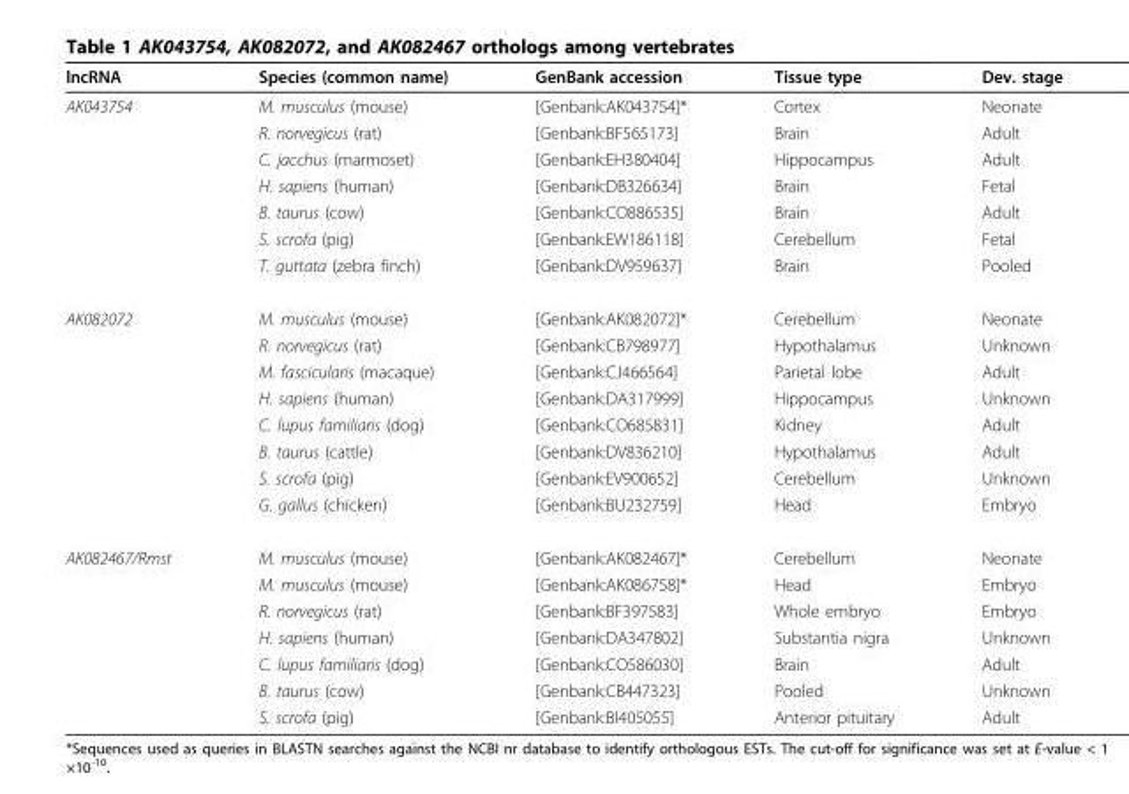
<table><thead><tr><td>lncRNA</td><td>Species (common name)</td><td>GenBank accession</td><td>Tissue type</td><td>Dev. stage</td></tr></thead><tbody><tr><td rowspan="7">AK043754</td><td>M. musculus (mouse)</td><td>[Genbank:AK043754]*</td><td>Cortex</td><td>Neonate</td></tr><tr><td>R. norvegicus (rat)</td><td>[Genbank:BF565173]</td><td>Brain</td><td>Adult</td></tr><tr><td>C. jacchus (marmoset)</td><td>[Genbank:EH380404]</td><td>Hippocampus</td><td>Adult</td></tr><tr><td>H. sapiens (human)</td><td>[Genbank:DB326634]</td><td>Brain</td><td>Fetal</td></tr><tr><td>B. taurus (cow)</td><td>[Genbank:CO886535]</td><td>Brain</td><td>Adult</td></tr><tr><td>S. scrofa (pig)</td><td>[Genbank:EW186118]</td><td>Cerebellum</td><td>Fetal</td></tr><tr><td>T. guttata (zebra finch)</td><td>[Genbank:DV959637]</td><td>Brain</td><td>Pooled</td></tr><tr><td rowspan="8">AK082072</td><td>M. musculus (mouse)</td><td>[Genbank:AK082072]*</td><td>Cerebellum</td><td>Neonate</td></tr><tr><td>R. norvegicus (rat)</td><td>[Genbank:CB798977]</td><td>Hypothalamus</td><td>Unknown</td></tr><tr><td>M. fascicularis (macaque)</td><td>[Genbank:CJ466564]</td><td>Parietal lobe</td><td>Adult</td></tr><tr><td>H. sapiens (human)</td><td>[Genbank:DA317999]</td><td>Hippocampus</td><td>Unknown</td></tr><tr><td>C. lupus familiaris (dog)</td><td>[Genbank:CO685831]</td><td>Kidney</td><td>Adult</td></tr><tr><td>B. taurus (cattle)</td><td>[Genbank:DV836210]</td><td>Hypothalamus</td><td>Adult</td></tr><tr><td>S. scrofa (pig)</td><td>[Genbank:EV900652]</td><td>Cerebellum</td><td>Unknown</td></tr><tr><td>G. gallus (chicken)</td><td>[Genbank:BU232759]</td><td>Head</td><td>Embryo</td></tr><tr><td rowspan="7">AK082467/Rmst</td><td>M. musculus (mouse)</td><td>[Genbank:AK082467]*</td><td>Cerebellum</td><td>Neonate</td></tr><tr><td>M. musculus (mouse)</td><td>[Genbank:AK086758]*</td><td>Head</td><td>Embryo</td></tr><tr><td>R. norvegicus (rat)</td><td>[Genbank:BF397583]</td><td>Whole embryo</td><td>Embryo</td></tr><tr><td>H. sapiens (human)</td><td>[Genbank:DA347802]</td><td>Substantia nigra</td><td>Unknown</td></tr><tr><td>C. lupus familiaris (dog)</td><td>[Genbank:CO586030]</td><td>Brain</td><td>Adult</td></tr><tr><td>B. taurus (cow)</td><td>[Genbank:CB447323]</td><td>Pooled</td><td>Unknown</td></tr><tr><td>S. scrofa (pig)</td><td>[Genbank:BI405055]</td><td>Anterior pituitary</td><td>Adult</td></tr></tbody></table>